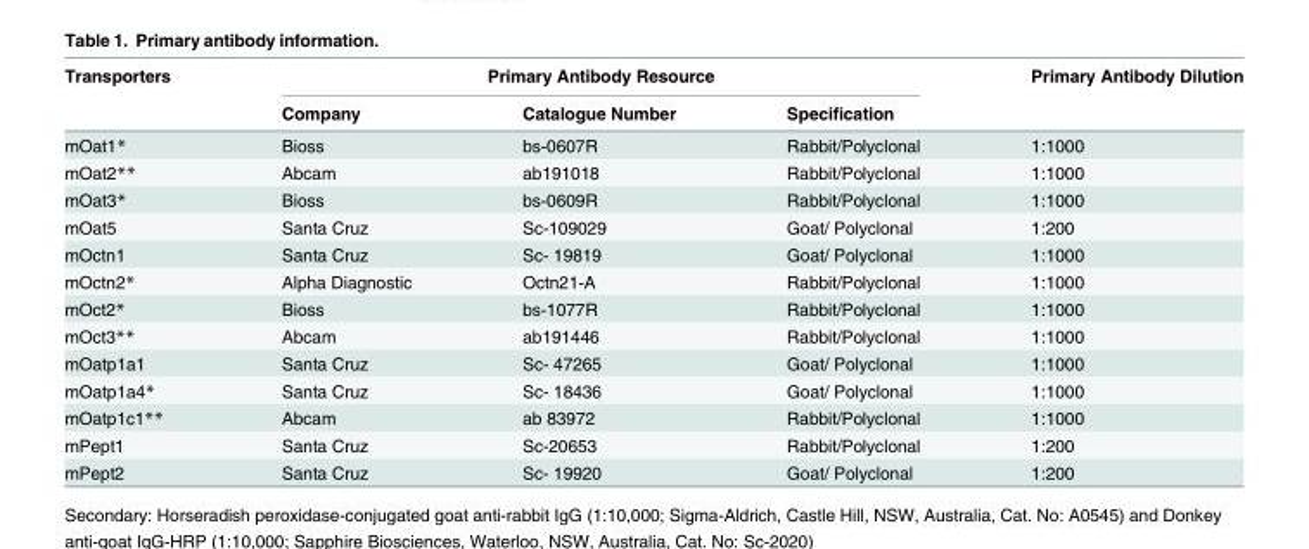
<table><thead><tr><td rowspan="2">Transporters</td><td colspan="3">Primary Antibody Resource</td><td rowspan="2">Primary Antibody Dilution</td></tr><tr><td>Company</td><td>Catalogue Number</td><td>Specification</td></tr></thead><tbody><tr><td>mOat1*</td><td>Bioss</td><td>bs-0607R</td><td>Rabbit/Polyclonal</td><td>1:1000</td></tr><tr><td>mOat2**</td><td>Abcam</td><td>ab191018</td><td>Rabbit/Polyclonal</td><td>1:1000</td></tr><tr><td>mOat3*</td><td>Bioss</td><td>bs-0609R</td><td>Rabbit/Polyclonal</td><td>1:1000</td></tr><tr><td>mOat5</td><td>Santa Cruz</td><td>Sc-109029</td><td>Goat/ Polyclonal</td><td>1:200</td></tr><tr><td>mOctn1</td><td>Santa Cruz</td><td>Sc- 19819</td><td>Goat/ Polyclonal</td><td>1:1000</td></tr><tr><td>mOctn2*</td><td>Alpha Diagnostic</td><td>Octn21-A</td><td>Rabbit/Polyclonal</td><td>1:1000</td></tr><tr><td>mOct2*</td><td>Bioss</td><td>bs-1077R</td><td>Rabbit/Polyclonal</td><td>1:1000</td></tr><tr><td>mOct3**</td><td>Abcam</td><td>ab191446</td><td>Rabbit/Polyclonal</td><td>1:1000</td></tr><tr><td>mOatp1a1</td><td>Santa Cruz</td><td>Sc- 47265</td><td>Goat/ Polyclonal</td><td>1:1000</td></tr><tr><td>mOatp1a4*</td><td>Santa Cruz</td><td>Sc- 18436</td><td>Goat/ Polyclonal</td><td>1:1000</td></tr><tr><td>mOatp1c1**</td><td>Abcam</td><td>ab 83972</td><td>Rabbit/Polyclonal</td><td>1:1000</td></tr><tr><td>mPept1</td><td>Santa Cruz</td><td>Sc-20653</td><td>Rabbit/Polyclonal</td><td>1:200</td></tr><tr><td>mPept2</td><td>Santa Cruz</td><td>Sc- 19920</td><td>Goat/ Polyclonal</td><td>1:200</td></tr></tbody></table>